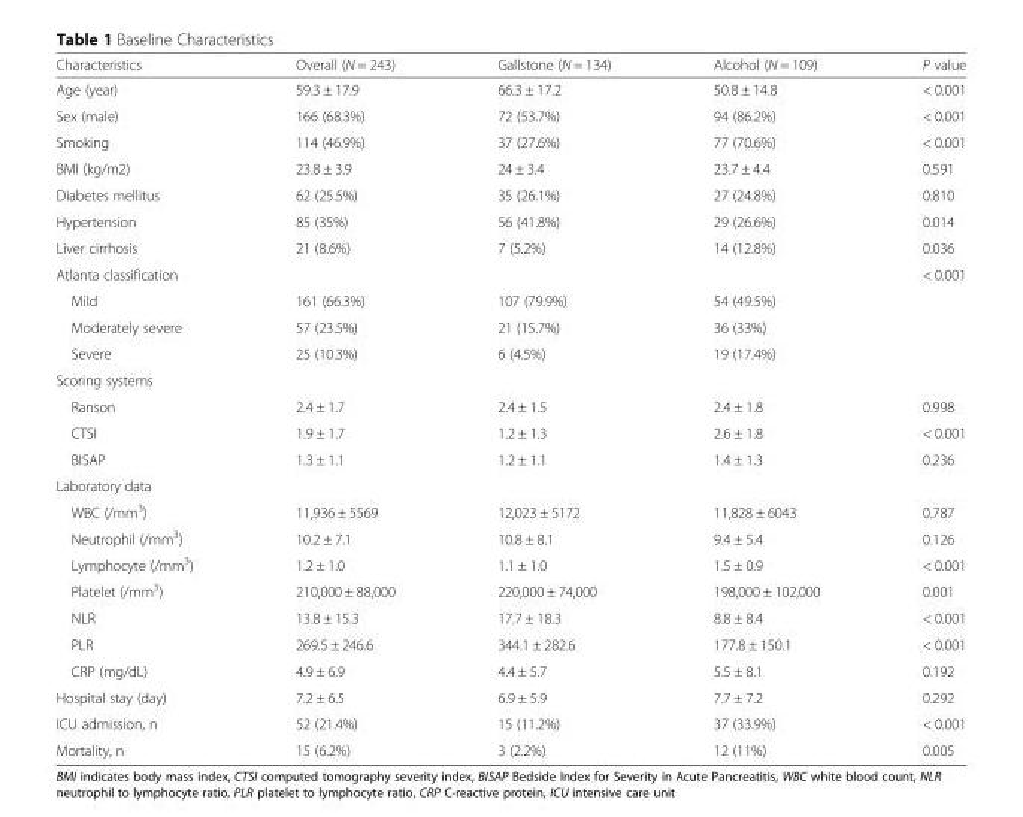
<table><thead><tr><td>Characteristics</td><td>Overall (N = 243)</td><td>Gallstone (N = 134)</td><td>Alcohol (N = 109)</td><td>P value</td></tr></thead><tbody><tr><td>Age (year)</td><td>59.3 ± 17.9</td><td>66.3 ± 17.2</td><td>50.8 ± 14.8</td><td>&lt; 0.001</td></tr><tr><td>Sex (male)</td><td>166 (68.3%)</td><td>72 (53.7%)</td><td>94 (86.2%)</td><td>&lt; 0.001</td></tr><tr><td>Smoking</td><td>114 (46.9%)</td><td>37 (27.6%)</td><td>77 (70.6%)</td><td>&lt; 0.001</td></tr><tr><td>BMI (kg/m2)</td><td>23.8 ± 3.9</td><td>24 ± 3.4</td><td>23.7 ± 4.4</td><td>0.591</td></tr><tr><td>Diabetes mellitus</td><td>62 (25.5%)</td><td>35 (26.1%)</td><td>27 (24.8%)</td><td>0.810</td></tr><tr><td>Hypertension</td><td>85 (35%)</td><td>56 (41.8%)</td><td>29 (26.6%)</td><td>0.014</td></tr><tr><td>Liver cirrhosis</td><td>21 (8.6%)</td><td>7 (5.2%)</td><td>14 (12.8%)</td><td>0.036</td></tr><tr><td colspan="4">Atlanta classification</td><td>&lt; 0.001</td></tr><tr><td>Mild</td><td>161 (66.3%)</td><td>107 (79.9%)</td><td>54 (49.5%)</td><td></td></tr><tr><td>Moderately severe</td><td>57 (23.5%)</td><td>21 (15.7%)</td><td>36 (33%)</td><td></td></tr><tr><td>Severe</td><td>25 (10.3%)</td><td>6 (4.5%)</td><td>19 (17.4%)</td><td></td></tr><tr><td colspan="5">Scoring systems</td></tr><tr><td>Ranson</td><td>2.4 ± 1.7</td><td>2.4 ± 1.5</td><td>2.4 ± 1.8</td><td>0.998</td></tr><tr><td>CTSI</td><td>1.9 ± 1.7</td><td>1.2 ± 1.3</td><td>2.6 ± 1.8</td><td>&lt; 0.001</td></tr><tr><td>BISAP</td><td>1.3 ± 1.1</td><td>1.2 ± 1.1</td><td>1.4 ± 1.3</td><td>0.236</td></tr><tr><td colspan="5">Laboratory data</td></tr><tr><td>WBC (/mm<sup>3</sup>)</td><td>11,936 ± 5569</td><td>12,023 ± 5172</td><td>11,828 ± 6043</td><td>0.787</td></tr><tr><td>Neutrophil (/mm<sup>3</sup>)</td><td>10.2 ± 7.1</td><td>10.8 ± 8.1</td><td>9.4 ± 5.4</td><td>0.126</td></tr><tr><td>Lymphocyte (/mm<sup>3</sup>)</td><td>1.2 ± 1.0</td><td>1.1 ± 1.0</td><td>1.5 ± 0.9</td><td>&lt; 0.001</td></tr><tr><td>Platelet (/mm<sup>3</sup>)</td><td>210,000 ± 88,000</td><td>220,000 ± 74,000</td><td>198,000 ± 102,000</td><td>0.001</td></tr><tr><td>NLR</td><td>13.8 ± 15.3</td><td>17.7 ± 18.3</td><td>8.8 ± 8.4</td><td>&lt; 0.001</td></tr><tr><td>PLR</td><td>269.5 ± 246.6</td><td>344.1 ± 282.6</td><td>177.8 ± 150.1</td><td>&lt; 0.001</td></tr><tr><td>CRP (mg/dL)</td><td>4.9 ± 6.9</td><td>4.4 ± 5.7</td><td>5.5 ± 8.1</td><td>0.192</td></tr><tr><td>Hospital stay (day)</td><td>7.2 ± 6.5</td><td>6.9 ± 5.9</td><td>7.7 ± 7.2</td><td>0.292</td></tr><tr><td>ICU admission, n</td><td>52 (21.4%)</td><td>15 (11.2%)</td><td>37 (33.9%)</td><td>&lt; 0.001</td></tr><tr><td>Mortality, n</td><td>15 (6.2%)</td><td>3 (2.2%)</td><td>12 (11%)</td><td>0.005</td></tr></tbody></table>